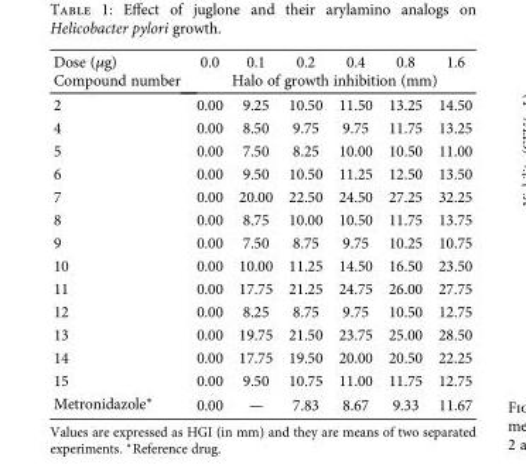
<table><thead><tr><td rowspan="2">Dose (μg) Compound number</td><td>0.0</td><td>0.1</td><td>0.2</td><td>0.4</td><td>0.8</td><td>1.6</td></tr><tr><td colspan="6">Halo of growth inhibition (mm)</td></tr></thead><tbody><tr><td>2</td><td>0.00</td><td>9.25</td><td>10.50</td><td>11.50</td><td>13.25</td><td>14.50</td></tr><tr><td>4</td><td>0.00</td><td>8.50</td><td>9.75</td><td>9.75</td><td>11.75</td><td>13.25</td></tr><tr><td>5</td><td>0.00</td><td>7.50</td><td>8.25</td><td>10.00</td><td>10.50</td><td>11.00</td></tr><tr><td>6</td><td>0.00</td><td>9.50</td><td>10.50</td><td>11.25</td><td>12.50</td><td>13.50</td></tr><tr><td>7</td><td>0.00</td><td>20.00</td><td>22.50</td><td>24.50</td><td>27.25</td><td>32.25</td></tr><tr><td>8</td><td>0.00</td><td>8.75</td><td>10.00</td><td>10.50</td><td>11.75</td><td>13.75</td></tr><tr><td>9</td><td>0.00</td><td>7.50</td><td>8.75</td><td>9.75</td><td>10.25</td><td>10.75</td></tr><tr><td>10</td><td>0.00</td><td>10.00</td><td>11.25</td><td>14.50</td><td>16.50</td><td>23.50</td></tr><tr><td>11</td><td>0.00</td><td>17.75</td><td>21.25</td><td>24.75</td><td>26.00</td><td>27.75</td></tr><tr><td>12</td><td>0.00</td><td>8.25</td><td>8.75</td><td>9.75</td><td>10.50</td><td>12.75</td></tr><tr><td>13</td><td>0.00</td><td>19.75</td><td>21.50</td><td>23.75</td><td>25.00</td><td>28.50</td></tr><tr><td>14</td><td>0.00</td><td>17.75</td><td>19.50</td><td>20.00</td><td>20.50</td><td>22.25</td></tr><tr><td>15</td><td>0.00</td><td>9.50</td><td>10.75</td><td>11.00</td><td>11.75</td><td>12.75</td></tr><tr><td>Metronidazole∗</td><td>0.00</td><td>—</td><td>7.83</td><td>8.67</td><td>9.33</td><td>11.67</td></tr></tbody></table>